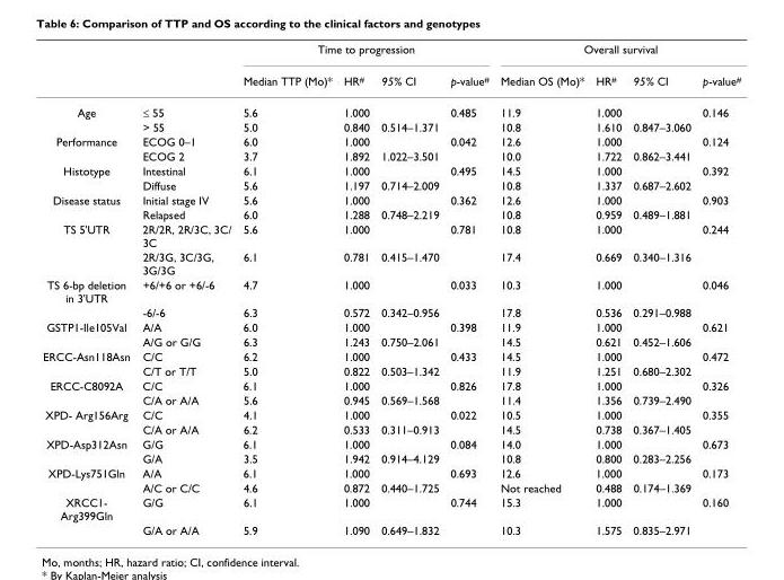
<table><thead><tr><td rowspan="2"></td><td rowspan="2"></td><td colspan="4">Time to progression</td><td colspan="4">Overall survival</td></tr><tr><td>Median TTP (Mo)*</td><td>HR<sup>#</sup></td><td>95% CI</td><td>p-value<sup>#</sup></td><td>Median OS (Mo)*</td><td>HR<sup>#</sup></td><td>95% CI</td><td>p-value<sup>#</sup></td></tr></thead><tbody><tr><td rowspan="2">Age</td><td>≤ 55</td><td>5.6</td><td>1.000</td><td></td><td>0.485</td><td>11.9</td><td>1.000</td><td></td><td>0.146</td></tr><tr><td>&gt; 55</td><td>5.0</td><td>0.840</td><td>0.514–1.371</td><td></td><td>10.8</td><td>1.610</td><td>0.847–3.060</td><td></td></tr><tr><td rowspan="2">Performance</td><td>ECOG 0–1</td><td>6.0</td><td>1.000</td><td></td><td>0.042</td><td>12.6</td><td>1.000</td><td></td><td>0.124</td></tr><tr><td>ECOG 2</td><td>3.7</td><td>1.892</td><td>1.022–3.501</td><td></td><td>10.0</td><td>1.722</td><td>0.862–3.441</td><td></td></tr><tr><td rowspan="2">Histotype</td><td>Intestinal</td><td>6.1</td><td>1.000</td><td></td><td>0.495</td><td>14.5</td><td>1.000</td><td></td><td>0.392</td></tr><tr><td>Diffuse</td><td>5.6</td><td>1.197</td><td>0.714–2.009</td><td></td><td>10.8</td><td>1.337</td><td>0.687–2.602</td><td></td></tr><tr><td rowspan="2">Disease status</td><td>Initial stage IV</td><td>5.6</td><td>1.000</td><td></td><td>0.362</td><td>12.6</td><td>1.000</td><td></td><td>0.903</td></tr><tr><td>Relapsed</td><td>6.0</td><td>1.288</td><td>0.748–2.219</td><td></td><td>10.8</td><td>0.959</td><td>0.489–1.881</td><td></td></tr><tr><td rowspan="2">TS 5&#x27;UTR</td><td>2R/2R, 2R/3C, 3C/ 3C</td><td>5.6</td><td>1.000</td><td></td><td>0.781</td><td>10.8</td><td>1.000</td><td></td><td>0.244</td></tr><tr><td>2R/3G, 3C/3G, 3G/3G</td><td>6.1</td><td>0.781</td><td>0.415–1.470</td><td></td><td>17.4</td><td>0.669</td><td>0.340–1.316</td><td></td></tr><tr><td rowspan="2">TS 6-bp deletion in 3&#x27;UTR</td><td>+6/+6 or +6/-6</td><td>4.7</td><td>1.000</td><td></td><td>0.033</td><td>10.3</td><td>1.000</td><td></td><td>0.046</td></tr><tr><td>-6/-6</td><td>6.3</td><td>0.572</td><td>0.342–0.956</td><td></td><td>17.8</td><td>0.536</td><td>0.291–0.988</td><td></td></tr><tr><td rowspan="2">GSTP1-Ile105Val</td><td>A/A</td><td>6.0</td><td>1.000</td><td></td><td>0.398</td><td>11.9</td><td>1.000</td><td></td><td>0.621</td></tr><tr><td>A/G or G/G</td><td>6.3</td><td>1.243</td><td>0.750–2.061</td><td></td><td>14.5</td><td>0.621</td><td>0.452–1.606</td><td></td></tr><tr><td rowspan="2">ERCC-Asn118Asn</td><td>C/C</td><td>6.2</td><td>1.000</td><td></td><td>0.433</td><td>14.5</td><td>1.000</td><td></td><td>0.472</td></tr><tr><td>C/T or T/T</td><td>5.0</td><td>0.822</td><td>0.503–1.342</td><td></td><td>11.9</td><td>1.251</td><td>0.680–2.302</td><td></td></tr><tr><td rowspan="2">ERCC-C8092A</td><td>C/C</td><td>6.1</td><td>1.000</td><td></td><td>0.826</td><td>17.8</td><td>1.000</td><td></td><td>0.326</td></tr><tr><td>C/A or A/A</td><td>5.6</td><td>0.945</td><td>0.569–1.568</td><td></td><td>11.4</td><td>1.356</td><td>0.739–2.490</td><td></td></tr><tr><td rowspan="2">XPD- Arg156Arg</td><td>C/C</td><td>4.1</td><td>1.000</td><td></td><td>0.022</td><td>10.5</td><td>1.000</td><td></td><td>0.355</td></tr><tr><td>C/A or A/A</td><td>6.2</td><td>0.533</td><td>0.311–0.913</td><td></td><td>14.5</td><td>0.738</td><td>0.367–1.405</td><td></td></tr><tr><td rowspan="2">XPD-Asp312Asn</td><td>G/G</td><td>6.1</td><td>1.000</td><td></td><td>0.084</td><td>14.0</td><td>1.000</td><td></td><td>0.673</td></tr><tr><td>G/A</td><td>3.5</td><td>1.942</td><td>0.914–4.129</td><td></td><td>10.8</td><td>0.800</td><td>0.283–2.256</td><td></td></tr><tr><td rowspan="2">XPD-Lys751Gln</td><td>A/A</td><td>6.1</td><td>1.000</td><td></td><td>0.693</td><td>12.6</td><td>1.000</td><td></td><td>0.173</td></tr><tr><td>A/C or C/C</td><td>4.6</td><td>0.872</td><td>0.440–1.725</td><td></td><td>Not reached</td><td>0.488</td><td>0.174–1.369</td><td></td></tr><tr><td rowspan="2">XRCC1- Arg399Gln</td><td>G/G</td><td>6.1</td><td>1.000</td><td></td><td>0.744</td><td>15.3</td><td>1.000</td><td></td><td>0.160</td></tr><tr><td>G/A or A/A</td><td>5.9</td><td>1.090</td><td>0.649–1.832</td><td></td><td>10.3</td><td>1.575</td><td>0.835–2.971</td><td></td></tr></tbody></table>